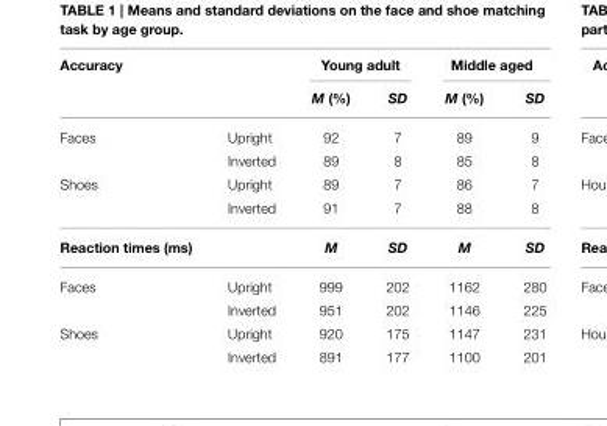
<table><thead><tr><td rowspan="2">Accuracy</td><td rowspan="2"></td><td colspan="2">Young adult</td><td colspan="2">Middle aged</td></tr><tr><td>M (%)</td><td>SD</td><td>M (%)</td><td>SD</td></tr></thead><tbody><tr><td rowspan="2">Faces</td><td>Upright</td><td>92</td><td>7</td><td>89</td><td>9</td></tr><tr><td>Inverted</td><td>89</td><td>8</td><td>85</td><td>8</td></tr><tr><td rowspan="2">Shoes</td><td>Upright</td><td>89</td><td>7</td><td>86</td><td>7</td></tr><tr><td>Inverted</td><td>91</td><td>7</td><td>88</td><td>8</td></tr><tr><td>Reaction times (ms)</td><td></td><td>M</td><td>SD</td><td>M</td><td>SD</td></tr><tr><td rowspan="2">Faces</td><td>Upright</td><td>999</td><td>202</td><td>1162</td><td>280</td></tr><tr><td>Inverted</td><td>951</td><td>202</td><td>1146</td><td>225</td></tr><tr><td rowspan="2">Shoes</td><td>Upright</td><td>920</td><td>175</td><td>1147</td><td>231</td></tr><tr><td>Inverted</td><td>891</td><td>177</td><td>1100</td><td>201</td></tr></tbody></table>